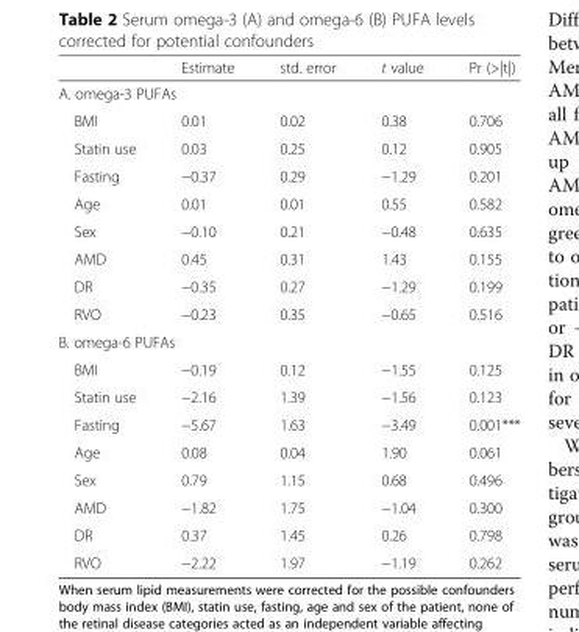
<table><thead><tr><td></td><td>Estimate</td><td>std. error</td><td>t value</td><td>Pr (&gt;|t|)</td></tr></thead><tbody><tr><td colspan="5">A. omega-3 PUFAs</td></tr><tr><td>BMI</td><td>0.01</td><td>0.02</td><td>0.38</td><td>0.706</td></tr><tr><td>Statin use</td><td>0.03</td><td>0.25</td><td>0.12</td><td>0.905</td></tr><tr><td>Fasting</td><td>−0.37</td><td>0.29</td><td>−1.29</td><td>0.201</td></tr><tr><td>Age</td><td>0.01</td><td>0.01</td><td>0.55</td><td>0.582</td></tr><tr><td>Sex</td><td>−0.10</td><td>0.21</td><td>−0.48</td><td>0.635</td></tr><tr><td>AMD</td><td>0.45</td><td>0.31</td><td>1.43</td><td>0.155</td></tr><tr><td>DR</td><td>−0.35</td><td>0.27</td><td>−1.29</td><td>0.199</td></tr><tr><td>RVO</td><td>−0.23</td><td>0.35</td><td>−0.65</td><td>0.516</td></tr><tr><td colspan="5">B. omega-6 PUFAs</td></tr><tr><td>BMI</td><td>−0.19</td><td>0.12</td><td>−1.55</td><td>0.125</td></tr><tr><td>Statin use</td><td>−2.16</td><td>1.39</td><td>−1.56</td><td>0.123</td></tr><tr><td>Fasting</td><td>−5.67</td><td>1.63</td><td>−3.49</td><td>0.001***</td></tr><tr><td>Age</td><td>0.08</td><td>0.04</td><td>1.90</td><td>0.061</td></tr><tr><td>Sex</td><td>0.79</td><td>1.15</td><td>0.68</td><td>0.496</td></tr><tr><td>AMD</td><td>−1.82</td><td>1.75</td><td>−1.04</td><td>0.300</td></tr><tr><td>DR</td><td>0.37</td><td>1.45</td><td>0.26</td><td>0.798</td></tr><tr><td>RVO</td><td>−2.22</td><td>1.97</td><td>−1.19</td><td>0.262</td></tr></tbody></table>